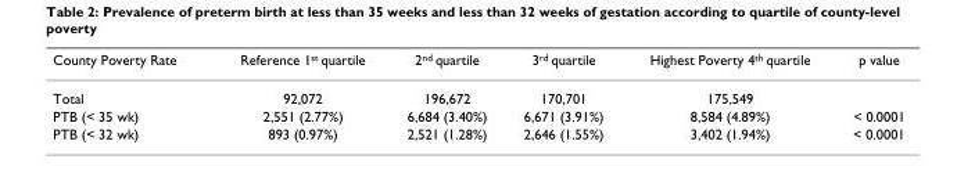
<table><thead><tr><td>County Poverty Rate</td><td>Reference 1<sup>st</sup> quartile</td><td>2<sup>nd</sup> quartile</td><td>3<sup>rd</sup> quartile</td><td>Highest Poverty 4<sup>th</sup> quartile</td><td>p value</td></tr></thead><tbody><tr><td>Total</td><td>92,072</td><td>196,672</td><td>170,701</td><td>175,549</td><td></td></tr><tr><td>PTB (&lt; 35 wk)</td><td>2,551 (2.77%)</td><td>6,684 (3.40%)</td><td>6,671 (3.91%)</td><td>8,584 (4.89%)</td><td>&lt; 0.0001</td></tr><tr><td>PTB (&lt; 32 wk)</td><td>893 (0.97%)</td><td>2,521 (1.28%)</td><td>2,646 (1.55%)</td><td>3,402 (1.94%)</td><td>&lt; 0.0001</td></tr></tbody></table>